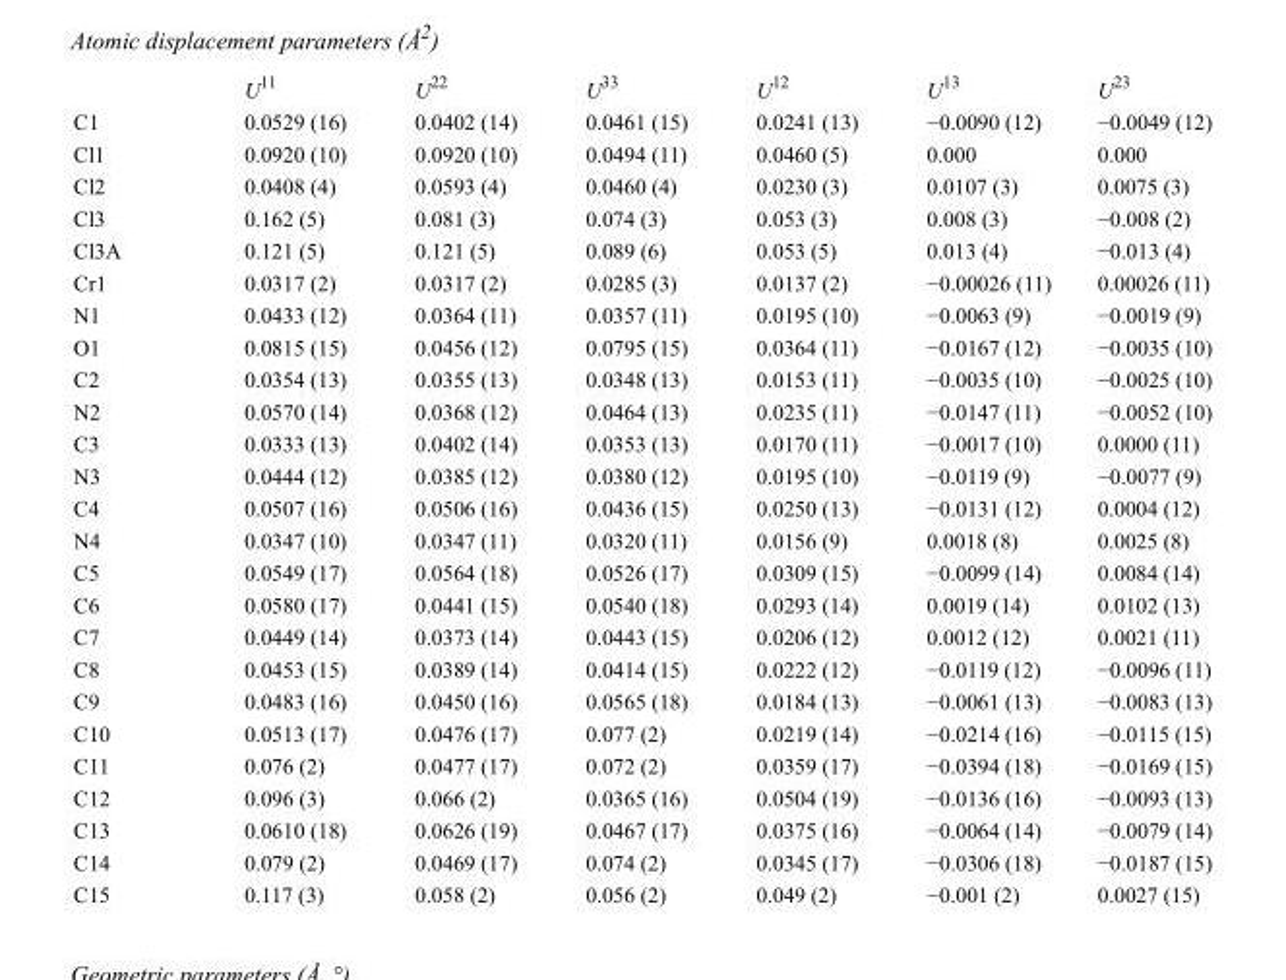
<table><thead><tr><td></td><td>U<sup>11</sup></td><td>U<sup>22</sup></td><td>U<sup>33</sup></td><td>U<sup>12</sup></td><td>U<sup>13</sup></td><td>U<sup>23</sup></td></tr></thead><tbody><tr><td>C1</td><td>0.0529 (16)</td><td>0.0402 (14)</td><td>0.0461 (15)</td><td>0.0241 (13)</td><td>−0.0090 (12)</td><td>−0.0049 (12)</td></tr><tr><td>Cl1</td><td>0.0920 (10)</td><td>0.0920 (10)</td><td>0.0494 (11)</td><td>0.0460 (5)</td><td>0.000</td><td>0.000</td></tr><tr><td>Cl2</td><td>0.0408 (4)</td><td>0.0593 (4)</td><td>0.0460 (4)</td><td>0.0230 (3)</td><td>0.0107 (3)</td><td>0.0075 (3)</td></tr><tr><td>Cl3</td><td>0.162 (5)</td><td>0.081 (3)</td><td>0.074 (3)</td><td>0.053 (3)</td><td>0.008 (3)</td><td>−0.008 (2)</td></tr><tr><td>Cl3A</td><td>0.121 (5)</td><td>0.121 (5)</td><td>0.089 (6)</td><td>0.053 (5)</td><td>0.013 (4)</td><td>−0.013 (4)</td></tr><tr><td>Cr1</td><td>0.0317 (2)</td><td>0.0317 (2)</td><td>0.0285 (3)</td><td>0.0137 (2)</td><td>−0.00026 (11)</td><td>0.00026 (11)</td></tr><tr><td>N1</td><td>0.0433 (12)</td><td>0.0364 (11)</td><td>0.0357 (11)</td><td>0.0195 (10)</td><td>−0.0063 (9)</td><td>−0.0019 (9)</td></tr><tr><td>O1</td><td>0.0815 (15)</td><td>0.0456 (12)</td><td>0.0795 (15)</td><td>0.0364 (11)</td><td>−0.0167 (12)</td><td>−0.0035 (10)</td></tr><tr><td>C2</td><td>0.0354 (13)</td><td>0.0355 (13)</td><td>0.0348 (13)</td><td>0.0153 (11)</td><td>−0.0035 (10)</td><td>−0.0025 (10)</td></tr><tr><td>N2</td><td>0.0570 (14)</td><td>0.0368 (12)</td><td>0.0464 (13)</td><td>0.0235 (11)</td><td>−0.0147 (11)</td><td>−0.0052 (10)</td></tr><tr><td>C3</td><td>0.0333 (13)</td><td>0.0402 (14)</td><td>0.0353 (13)</td><td>0.0170 (11)</td><td>−0.0017 (10)</td><td>0.0000 (11)</td></tr><tr><td>N3</td><td>0.0444 (12)</td><td>0.0385 (12)</td><td>0.0380 (12)</td><td>0.0195 (10)</td><td>−0.0119 (9)</td><td>−0.0077 (9)</td></tr><tr><td>C4</td><td>0.0507 (16)</td><td>0.0506 (16)</td><td>0.0436 (15)</td><td>0.0250 (13)</td><td>−0.0131 (12)</td><td>0.0004 (12)</td></tr><tr><td>N4</td><td>0.0347 (10)</td><td>0.0347 (11)</td><td>0.0320 (11)</td><td>0.0156 (9)</td><td>0.0018 (8)</td><td>0.0025 (8)</td></tr><tr><td>C5</td><td>0.0549 (17)</td><td>0.0564 (18)</td><td>0.0526 (17)</td><td>0.0309 (15)</td><td>−0.0099 (14)</td><td>0.0084 (14)</td></tr><tr><td>C6</td><td>0.0580 (17)</td><td>0.0441 (15)</td><td>0.0540 (18)</td><td>0.0293 (14)</td><td>0.0019 (14)</td><td>0.0102 (13)</td></tr><tr><td>C7</td><td>0.0449 (14)</td><td>0.0373 (14)</td><td>0.0443 (15)</td><td>0.0206 (12)</td><td>0.0012 (12)</td><td>0.0021 (11)</td></tr><tr><td>C8</td><td>0.0453 (15)</td><td>0.0389 (14)</td><td>0.0414 (15)</td><td>0.0222 (12)</td><td>−0.0119 (12)</td><td>−0.0096 (11)</td></tr><tr><td>C9</td><td>0.0483 (16)</td><td>0.0450 (16)</td><td>0.0565 (18)</td><td>0.0184 (13)</td><td>−0.0061 (13)</td><td>−0.0083 (13)</td></tr><tr><td>C10</td><td>0.0513 (17)</td><td>0.0476 (17)</td><td>0.077 (2)</td><td>0.0219 (14)</td><td>−0.0214 (16)</td><td>−0.0115 (15)</td></tr><tr><td>C11</td><td>0.076 (2)</td><td>0.0477 (17)</td><td>0.072 (2)</td><td>0.0359 (17)</td><td>−0.0394 (18)</td><td>−0.0169 (15)</td></tr><tr><td>C12</td><td>0.096 (3)</td><td>0.066 (2)</td><td>0.0365 (16)</td><td>0.0504 (19)</td><td>−0.0136 (16)</td><td>−0.0093 (13)</td></tr><tr><td>C13</td><td>0.0610 (18)</td><td>0.0626 (19)</td><td>0.0467 (17)</td><td>0.0375 (16)</td><td>−0.0064 (14)</td><td>−0.0079 (14)</td></tr><tr><td>C14</td><td>0.079 (2)</td><td>0.0469 (17)</td><td>0.074 (2)</td><td>0.0345 (17)</td><td>−0.0306 (18)</td><td>−0.0187 (15)</td></tr><tr><td>C15</td><td>0.117 (3)</td><td>0.058 (2)</td><td>0.056 (2)</td><td>0.049 (2)</td><td>−0.001 (2)</td><td>0.0027 (15)</td></tr></tbody></table>